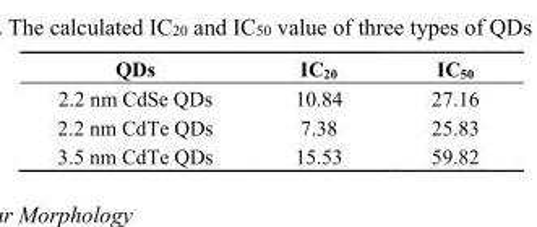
<table><thead><tr><td>QDs</td><td>IC<sub>20</sub></td><td>IC<sub>50</sub></td></tr></thead><tbody><tr><td>2.2 nm CdSe QDs</td><td>10.84</td><td>27.16</td></tr><tr><td>2.2 nm CdTe QDs</td><td>7.38</td><td>25.83</td></tr><tr><td>3.5 nm CdTe QDs</td><td>15.53</td><td>59.82</td></tr></tbody></table>